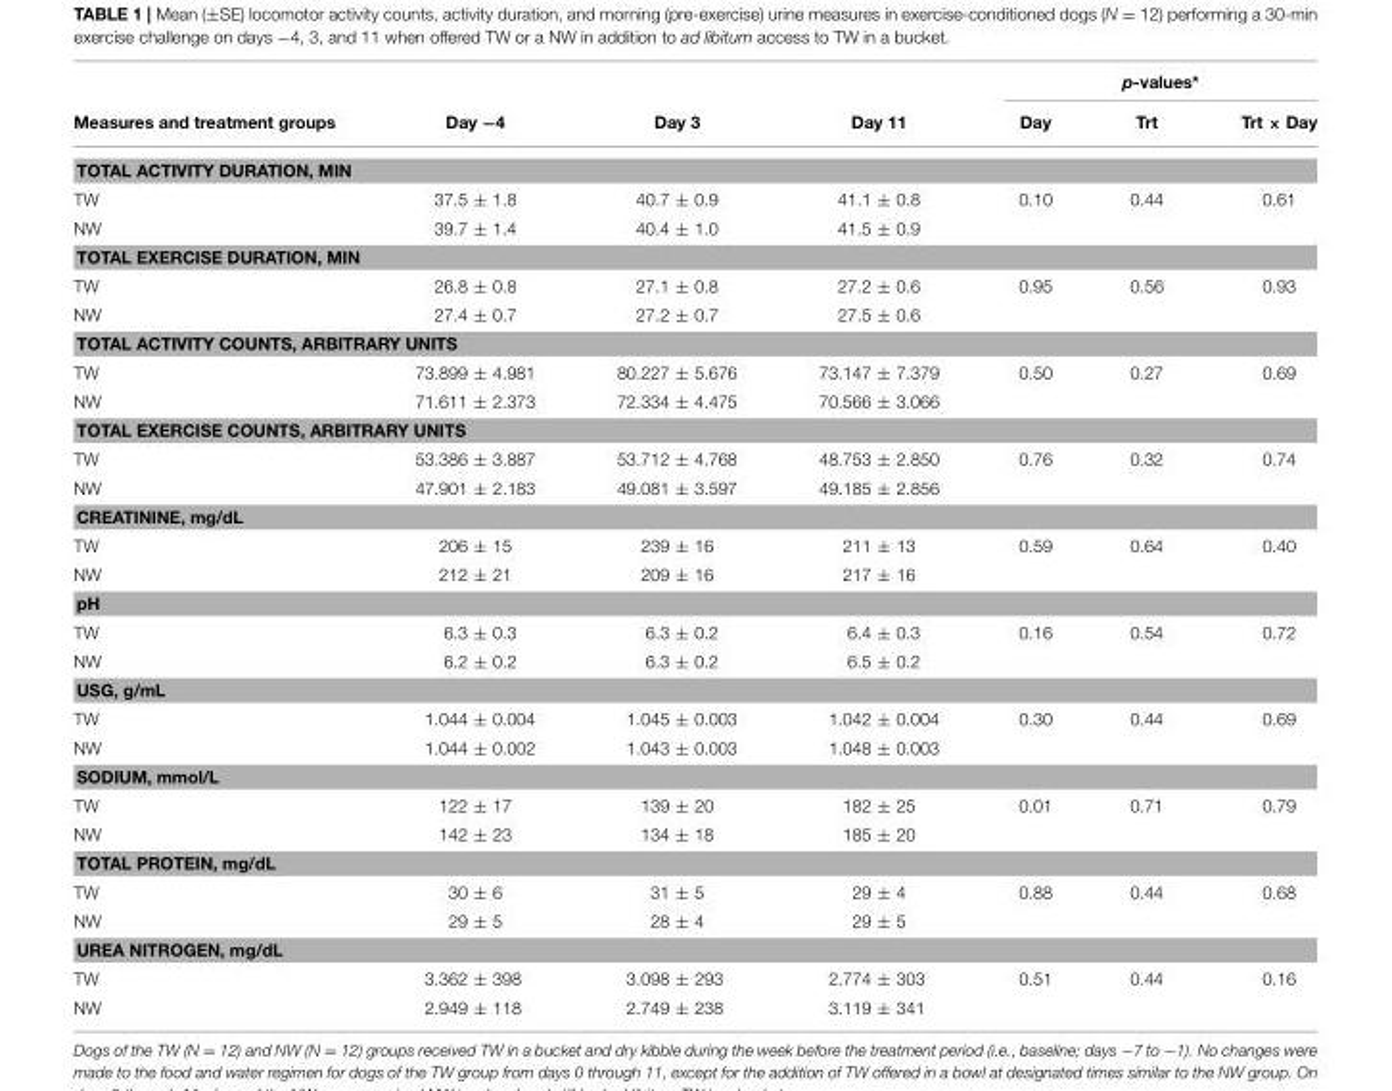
<table><thead><tr><td rowspan="2">Measures and treatment groups</td><td rowspan="2">Day −4</td><td rowspan="2">Day 3</td><td rowspan="2">Day 11</td><td colspan="3">p-values*</td></tr><tr><td>Day</td><td>Trt</td><td>Trt × Day</td></tr></thead><tbody><tr><td colspan="7">TOTAL ACTIVITY DURATION, MIN</td></tr><tr><td>TW</td><td>37.5 ± 1.8</td><td>40.7 ± 0.9</td><td>41.1 ± 0.8</td><td>0.10</td><td>0.44</td><td>0.61</td></tr><tr><td>NW</td><td>39.7 ± 1.4</td><td>40.4 ± 1.0</td><td>41.5 ± 0.9</td><td></td><td></td><td></td></tr><tr><td colspan="7">TOTAL EXERCISE DURATION, MIN</td></tr><tr><td>TW</td><td>26.8 ± 0.8</td><td>27.1 ± 0.8</td><td>27.2 ± 0.6</td><td>0.95</td><td>0.56</td><td>0.93</td></tr><tr><td>NW</td><td>27.4 ± 0.7</td><td>27.2 ± 0.7</td><td>27.5 ± 0.6</td><td></td><td></td><td></td></tr><tr><td colspan="7">TOTAL ACTIVITY COUNTS, ARBITRARY UNITS</td></tr><tr><td>TW</td><td>73.899 ± 4.981</td><td>80.227 ± 5.676</td><td>73.147 ± 7.379</td><td>0.50</td><td>0.27</td><td>0.69</td></tr><tr><td>NW</td><td>71.611 ± 2.373</td><td>72.334 ± 4.475</td><td>70.566 ± 3.066</td><td></td><td></td><td></td></tr><tr><td colspan="7">TOTAL EXERCISE COUNTS, ARBITRARY UNITS</td></tr><tr><td>TW</td><td>53.386 ± 3.887</td><td>53.712 ± 4.768</td><td>48.753 ± 2.850</td><td>0.76</td><td>0.32</td><td>0.74</td></tr><tr><td>NW</td><td>47.901 ± 2.183</td><td>49.081 ± 3.597</td><td>49.185 ± 2.856</td><td></td><td></td><td></td></tr><tr><td colspan="7">CREATININE, mg/dL</td></tr><tr><td>TW</td><td>206 ± 15</td><td>239 ± 16</td><td>211 ± 13</td><td>0.59</td><td>0.64</td><td>0.40</td></tr><tr><td>NW</td><td>212 ± 21</td><td>209 ± 16</td><td>217 ± 16</td><td></td><td></td><td></td></tr><tr><td colspan="7">pH</td></tr><tr><td>TW</td><td>6.3 ± 0.3</td><td>6.3 ± 0.2</td><td>6.4 ± 0.3</td><td>0.16</td><td>0.54</td><td>0.72</td></tr><tr><td>NW</td><td>6.2 ± 0.2</td><td>6.3 ± 0.2</td><td>6.5 ± 0.2</td><td></td><td></td><td></td></tr><tr><td colspan="7">USG, g/mL</td></tr><tr><td>TW</td><td>1.044 ± 0.004</td><td>1.045 ± 0.003</td><td>1.042 ± 0.004</td><td>0.30</td><td>0.44</td><td>0.69</td></tr><tr><td>NW</td><td>1.044 ± 0.002</td><td>1.043 ± 0.003</td><td>1.048 ± 0.003</td><td></td><td></td><td></td></tr><tr><td colspan="7">SODIUM, mmol/L</td></tr><tr><td>TW</td><td>122 ± 17</td><td>139 ± 20</td><td>182 ± 25</td><td>0.01</td><td>0.71</td><td>0.79</td></tr><tr><td>NW</td><td>142 ± 23</td><td>134 ± 18</td><td>185 ± 20</td><td></td><td></td><td></td></tr><tr><td colspan="7">TOTAL PROTEIN, mg/dL</td></tr><tr><td>TW</td><td>30 ± 6</td><td>31 ± 5</td><td>29 ± 4</td><td>0.88</td><td>0.44</td><td>0.68</td></tr><tr><td>NW</td><td>29 ± 5</td><td>28 ± 4</td><td>29 ± 5</td><td></td><td></td><td></td></tr><tr><td colspan="7">UREA NITROGEN, mg/dL</td></tr><tr><td>TW</td><td>3.362 ± 398</td><td>3.098 ± 293</td><td>2.774 ± 303</td><td>0.51</td><td>0.44</td><td>0.16</td></tr><tr><td>NW</td><td>2.949 ± 118</td><td>2.749 ± 238</td><td>3.119 ± 341</td><td></td><td></td><td></td></tr></tbody></table>